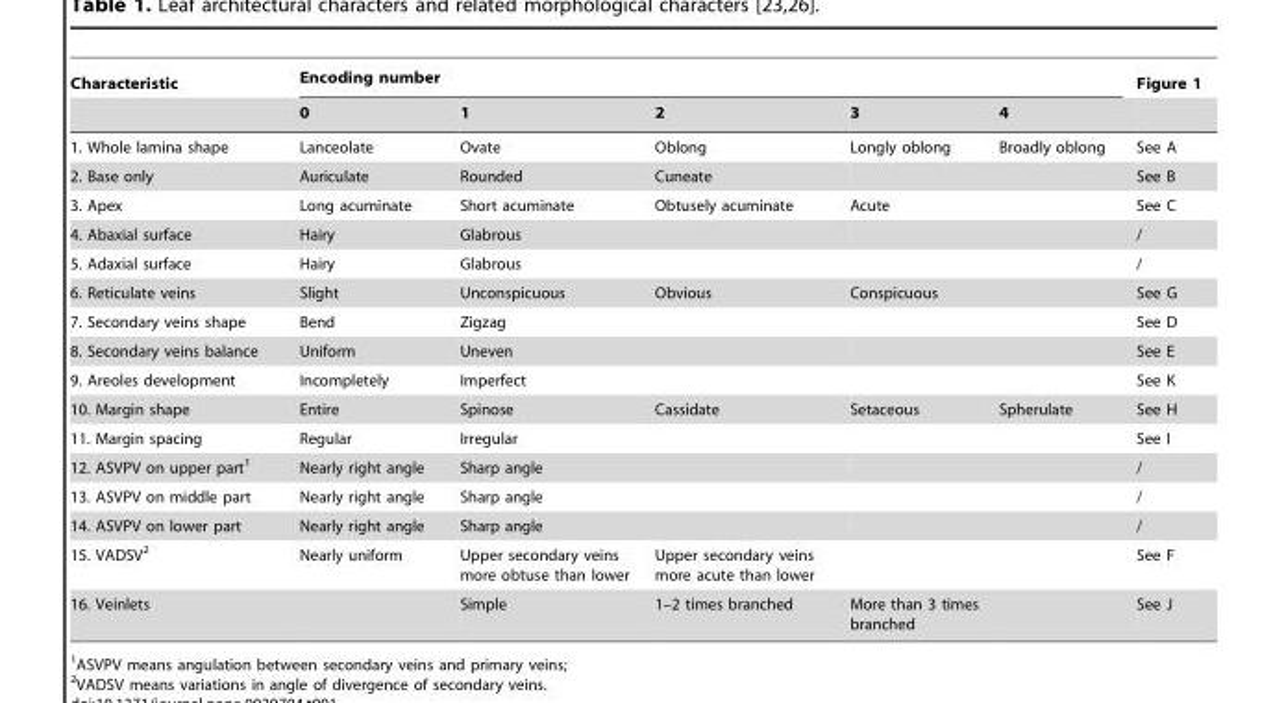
<table><thead><tr><td rowspan="2">Characteristic</td><td colspan="5">Encoding number</td><td rowspan="2">Figure 1</td></tr><tr><td>0</td><td>1</td><td>2</td><td>3</td><td>4</td></tr></thead><tbody><tr><td>1. Whole lamina shape</td><td>Lanceolate</td><td>Ovate</td><td>Oblong</td><td>Longly oblong</td><td>Broadly oblong</td><td>See A</td></tr><tr><td>2. Base only</td><td>Auriculate</td><td>Rounded</td><td>Cuneate</td><td></td><td></td><td>See B</td></tr><tr><td>3. Apex</td><td>Long acuminate</td><td>Short acuminate</td><td>Obtusely acuminate</td><td>Acute</td><td></td><td>See C</td></tr><tr><td>4. Abaxial surface</td><td>Hairy</td><td>Glabrous</td><td></td><td></td><td></td><td>/</td></tr><tr><td>5. Adaxial surface</td><td>Hairy</td><td>Glabrous</td><td></td><td></td><td></td><td>/</td></tr><tr><td>6. Reticulate veins</td><td>Slight</td><td>Unconspicuous</td><td>Obvious</td><td>Conspicuous</td><td></td><td>See G</td></tr><tr><td>7. Secondary veins shape</td><td>Bend</td><td>Zigzag</td><td></td><td></td><td></td><td>See D</td></tr><tr><td>8. Secondary veins balance</td><td>Uniform</td><td>Uneven</td><td></td><td></td><td></td><td>See E</td></tr><tr><td>9. Areoles development</td><td>Incompletely</td><td>Imperfect</td><td></td><td></td><td></td><td>See K</td></tr><tr><td>10. Margin shape</td><td>Entire</td><td>Spinose</td><td>Cassidate</td><td>Setaceous</td><td>Spherulate</td><td>See H</td></tr><tr><td>11. Margin spacing</td><td>Regular</td><td>Irregular</td><td></td><td></td><td></td><td>See I</td></tr><tr><td>12. ASVPV on upper part<sup>1</sup></td><td>Nearly right angle</td><td>Sharp angle</td><td></td><td></td><td></td><td>/</td></tr><tr><td>13. ASVPV on middle part</td><td>Nearly right angle</td><td>Sharp angle</td><td></td><td></td><td></td><td>/</td></tr><tr><td>14. ASVPV on lower part</td><td>Nearly right angle</td><td>Sharp angle</td><td></td><td></td><td></td><td>/</td></tr><tr><td>15. VADSV<sup>2</sup></td><td>Nearly uniform</td><td>Upper secondary veins more obtuse than lower</td><td>Upper secondary veins more acute than lower</td><td></td><td></td><td>See F</td></tr><tr><td>16. Veinlets</td><td></td><td>Simple</td><td>1–2 times branched</td><td>More than 3 times branched</td><td></td><td>See J</td></tr></tbody></table>